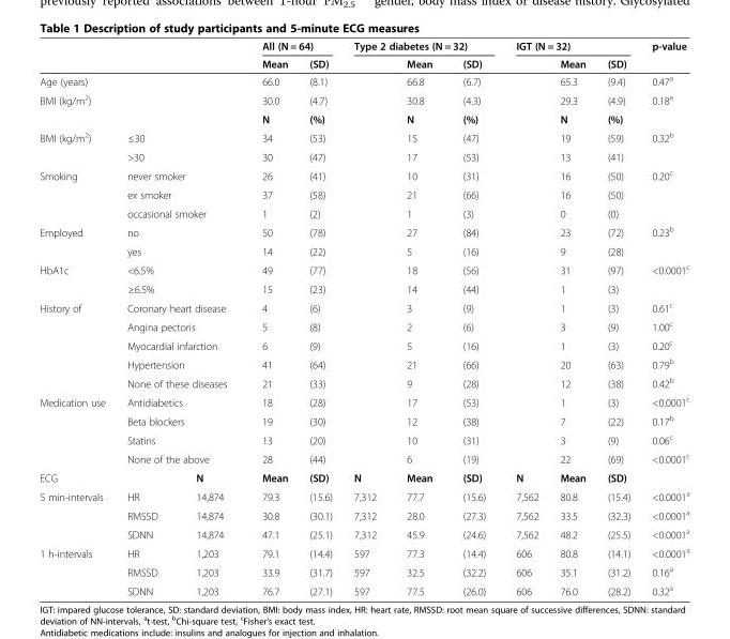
<table><thead><tr><td rowspan="2"></td><td rowspan="2"></td><td rowspan="2"></td><td colspan="2">All (N = 64)</td><td colspan="3">Type 2 diabetes (N = 32)</td><td colspan="3">IGT (N = 32)</td><td rowspan="2">p-value</td></tr><tr><td>Mean</td><td>(SD)</td><td></td><td>Mean</td><td>(SD)</td><td></td><td>Mean</td><td>(SD)</td></tr></thead><tbody><tr><td colspan="3">Age (years)</td><td>66.0</td><td>(8.1)</td><td></td><td>66.8</td><td>(6.7)</td><td></td><td>65.3</td><td>(9.4)</td><td>0.47<sup>a</sup></td></tr><tr><td colspan="3">BMI (kg/m<sup>2</sup>)</td><td>30.0</td><td>(4.7)</td><td></td><td>30.8</td><td>(4.3)</td><td></td><td>29.3</td><td>(4.9)</td><td>0.18<sup>a</sup></td></tr><tr><td></td><td colspan="2"></td><td>N</td><td>(%)</td><td></td><td>N</td><td>(%)</td><td></td><td>N</td><td>(%)</td><td></td></tr><tr><td rowspan="2">BMI (kg/m<sup>2</sup>)</td><td colspan="2">≤30</td><td>34</td><td>(53)</td><td></td><td>15</td><td>(47)</td><td></td><td>19</td><td>(59)</td><td>0.32<sup>b</sup></td></tr><tr><td colspan="2">&gt;30</td><td>30</td><td>(47)</td><td></td><td>17</td><td>(53)</td><td></td><td>13</td><td>(41)</td><td></td></tr><tr><td rowspan="3">Smoking</td><td colspan="2">never smoker</td><td>26</td><td>(41)</td><td></td><td>10</td><td>(31)</td><td></td><td>16</td><td>(50)</td><td>0.20<sup>c</sup></td></tr><tr><td colspan="2">ex smoker</td><td>37</td><td>(58)</td><td></td><td>21</td><td>(66)</td><td></td><td>16</td><td>(50)</td><td></td></tr><tr><td colspan="2">occasional smoker</td><td>1</td><td>(2)</td><td></td><td>1</td><td>(3)</td><td></td><td>0</td><td>(0)</td><td></td></tr><tr><td rowspan="2">Employed</td><td colspan="2">no</td><td>50</td><td>(78)</td><td></td><td>27</td><td>(84)</td><td></td><td>23</td><td>(72)</td><td>0.23<sup>b</sup></td></tr><tr><td colspan="2">yes</td><td>14</td><td>(22)</td><td></td><td>5</td><td>(16)</td><td></td><td>9</td><td>(28)</td><td></td></tr><tr><td rowspan="2">HbA1c</td><td colspan="2">&lt;6.5%</td><td>49</td><td>(77)</td><td></td><td>18</td><td>(56)</td><td></td><td>31</td><td>(97)</td><td>&lt;0.0001<sup>c</sup></td></tr><tr><td colspan="2">≥6.5%</td><td>15</td><td>(23)</td><td></td><td>14</td><td>(44)</td><td></td><td>1</td><td>(3)</td><td></td></tr><tr><td rowspan="5">History of</td><td colspan="2">Coronary heart disease</td><td>4</td><td>(6)</td><td></td><td>3</td><td>(9)</td><td></td><td>1</td><td>(3)</td><td>0.61<sup>c</sup></td></tr><tr><td colspan="2">Angina pectoris</td><td>5</td><td>(8)</td><td></td><td>2</td><td>(6)</td><td></td><td>3</td><td>(9)</td><td>1.00<sup>c</sup></td></tr><tr><td colspan="2">Myocardial infarction</td><td>6</td><td>(9)</td><td></td><td>5</td><td>(16)</td><td></td><td>1</td><td>(3)</td><td>0.20<sup>c</sup></td></tr><tr><td colspan="2">Hypertension</td><td>41</td><td>(64)</td><td></td><td>21</td><td>(66)</td><td></td><td>20</td><td>(63)</td><td>0.79<sup>b</sup></td></tr><tr><td colspan="2">None of these diseases</td><td>21</td><td>(33)</td><td></td><td>9</td><td>(28)</td><td></td><td>12</td><td>(38)</td><td>0.42<sup>b</sup></td></tr><tr><td rowspan="4">Medication use</td><td colspan="2">Antidiabetics</td><td>18</td><td>(28)</td><td></td><td>17</td><td>(53)</td><td></td><td>1</td><td>(3)</td><td>&lt;0.0001<sup>c</sup></td></tr><tr><td colspan="2">Beta blockers</td><td>19</td><td>(30)</td><td></td><td>12</td><td>(38)</td><td></td><td>7</td><td>(22)</td><td>0.17<sup>b</sup></td></tr><tr><td colspan="2">Statins</td><td>13</td><td>(20)</td><td></td><td>10</td><td>(31)</td><td></td><td>3</td><td>(9)</td><td>0.06<sup>c</sup></td></tr><tr><td colspan="2">None of the above</td><td>28</td><td>(44)</td><td></td><td>6</td><td>(19)</td><td></td><td>22</td><td>(69)</td><td>&lt;0.0001<sup>c</sup></td></tr><tr><td>ECG</td><td></td><td>N</td><td>Mean</td><td>(SD)</td><td>N</td><td>Mean</td><td>(SD)</td><td>N</td><td>Mean</td><td>(SD)</td><td></td></tr><tr><td rowspan="3">5 min-intervals</td><td>HR</td><td>14,874</td><td>79.3</td><td>(15.6)</td><td>7,312</td><td>77.7</td><td>(15.6)</td><td>7,562</td><td>80.8</td><td>(15.4)</td><td>&lt;0.0001<sup>a</sup></td></tr><tr><td>RMSSD</td><td>14,874</td><td>30.8</td><td>(30.1)</td><td>7,312</td><td>28.0</td><td>(27.3)</td><td>7,562</td><td>33.5</td><td>(32.3)</td><td>&lt;0.0001<sup>a</sup></td></tr><tr><td>SDNN</td><td>14,874</td><td>47.1</td><td>(25.1)</td><td>7,312</td><td>45.9</td><td>(24.6)</td><td>7,562</td><td>48.2</td><td>(25.5)</td><td>&lt;0.0001<sup>a</sup></td></tr><tr><td rowspan="3">1 h-intervals</td><td>HR</td><td>1,203</td><td>79.1</td><td>(14.4)</td><td>597</td><td>77.3</td><td>(14.4)</td><td>606</td><td>80.8</td><td>(14.1)</td><td>&lt;0.0001<sup>a</sup></td></tr><tr><td>RMSSD</td><td>1,203</td><td>33.9</td><td>(31.7)</td><td>597</td><td>32.5</td><td>(32.2)</td><td>606</td><td>35.1</td><td>(31.2)</td><td>0.16<sup>a</sup></td></tr><tr><td>SDNN</td><td>1,203</td><td>76.7</td><td>(27.1)</td><td>597</td><td>77.5</td><td>(26.0)</td><td>606</td><td>76.0</td><td>(28.2)</td><td>0.32<sup>a</sup></td></tr></tbody></table>